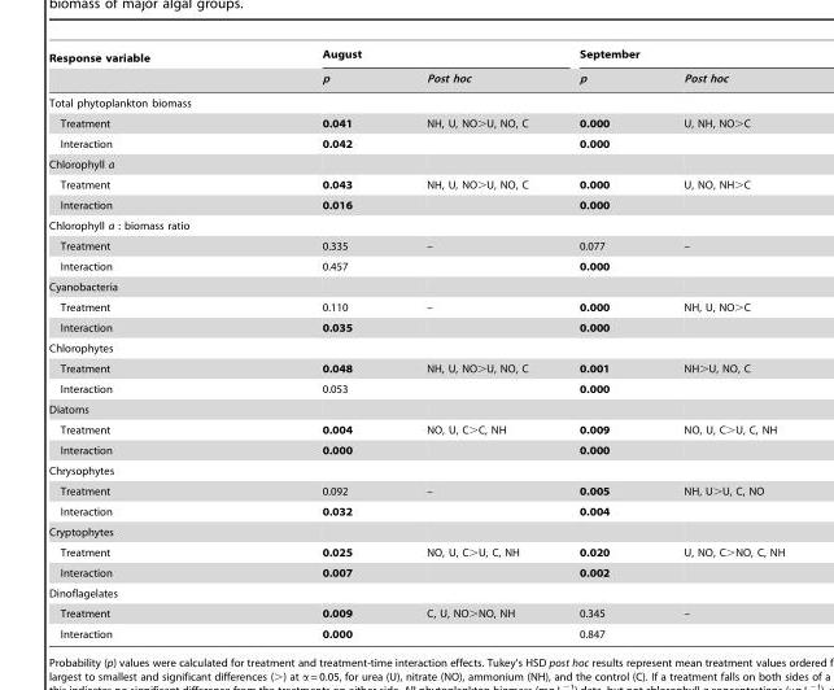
<table><thead><tr><td rowspan="2">Response variable</td><td colspan="2">August</td><td colspan="2">September</td></tr><tr><td>p</td><td>Post hoc</td><td>p</td><td>Post hoc</td></tr></thead><tbody><tr><td colspan="5">Total phytoplankton biomass</td></tr><tr><td>Treatment</td><td>0.041</td><td>NH, U, NO&gt;U, NO, C</td><td>0.000</td><td>U, NH, NO&gt;C</td></tr><tr><td>Interaction</td><td>0.042</td><td></td><td>0.000</td><td></td></tr><tr><td colspan="5">Chlorophyll a</td></tr><tr><td>Treatment</td><td>0.043</td><td>NH, U, NO&gt;U, NO, C</td><td>0.000</td><td>U, NO, NH&gt;C</td></tr><tr><td>Interaction</td><td>0.016</td><td></td><td>0.000</td><td></td></tr><tr><td colspan="5">Chlorophyll a : biomass ratio</td></tr><tr><td>Treatment</td><td>0.335</td><td>–</td><td>0.077</td><td>–</td></tr><tr><td>Interaction</td><td>0.457</td><td></td><td>0.000</td><td></td></tr><tr><td colspan="5">Cyanobacteria</td></tr><tr><td>Treatment</td><td>0.110</td><td>–</td><td>0.000</td><td>NH, U, NO&gt;C</td></tr><tr><td>Interaction</td><td>0.035</td><td></td><td>0.000</td><td></td></tr><tr><td colspan="5">Chlorophytes</td></tr><tr><td>Treatment</td><td>0.048</td><td>NH, U, NO&gt;U, NO, C</td><td>0.001</td><td>NH&gt;U, NO, C</td></tr><tr><td>Interaction</td><td>0.053</td><td></td><td>0.000</td><td></td></tr><tr><td colspan="5">Diatoms</td></tr><tr><td>Treatment</td><td>0.004</td><td>NO, U, C&gt;C, NH</td><td>0.009</td><td>NO, U, C&gt;U, C, NH</td></tr><tr><td>Interaction</td><td>0.000</td><td></td><td>0.000</td><td></td></tr><tr><td colspan="5">Chrysophytes</td></tr><tr><td>Treatment</td><td>0.092</td><td>–</td><td>0.005</td><td>NH, U&gt;U, C, NO</td></tr><tr><td>Interaction</td><td>0.032</td><td></td><td>0.004</td><td></td></tr><tr><td colspan="5">Cryptophytes</td></tr><tr><td>Treatment</td><td>0.025</td><td>NO, U, C&gt;U, C, NH</td><td>0.020</td><td>U, NO, C&gt;NO, C, NH</td></tr><tr><td>Interaction</td><td>0.007</td><td></td><td>0.002</td><td></td></tr><tr><td colspan="5">Dinoflagelates</td></tr><tr><td>Treatment</td><td>0.009</td><td>C, U, NO&gt;NO, NH</td><td>0.345</td><td>–</td></tr><tr><td>Interaction</td><td>0.000</td><td></td><td>0.847</td><td></td></tr></tbody></table>